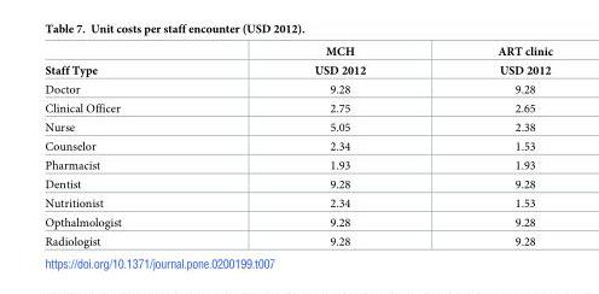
<table><thead><tr><td rowspan="2">Staff Type</td><td rowspan="2">MCH USD 2012</td><td rowspan="2">ART clinic USD 2012</td></tr><tr></tr></thead><tbody><tr><td>Doctor</td><td>9.28</td><td>9.28</td></tr><tr><td>Clinical Officer</td><td>2.75</td><td>2.65</td></tr><tr><td>Nurse</td><td>5.05</td><td>2.38</td></tr><tr><td>Counselor</td><td>2.34</td><td>1.53</td></tr><tr><td>Pharmacist</td><td>1.93</td><td>1.93</td></tr><tr><td>Dentist</td><td>9.28</td><td>9.28</td></tr><tr><td>Nutritionist</td><td>2.34</td><td>1.53</td></tr><tr><td>Opthalmologist</td><td>9.28</td><td>9.28</td></tr><tr><td>Radiologist</td><td>9.28</td><td>9.28</td></tr></tbody></table>